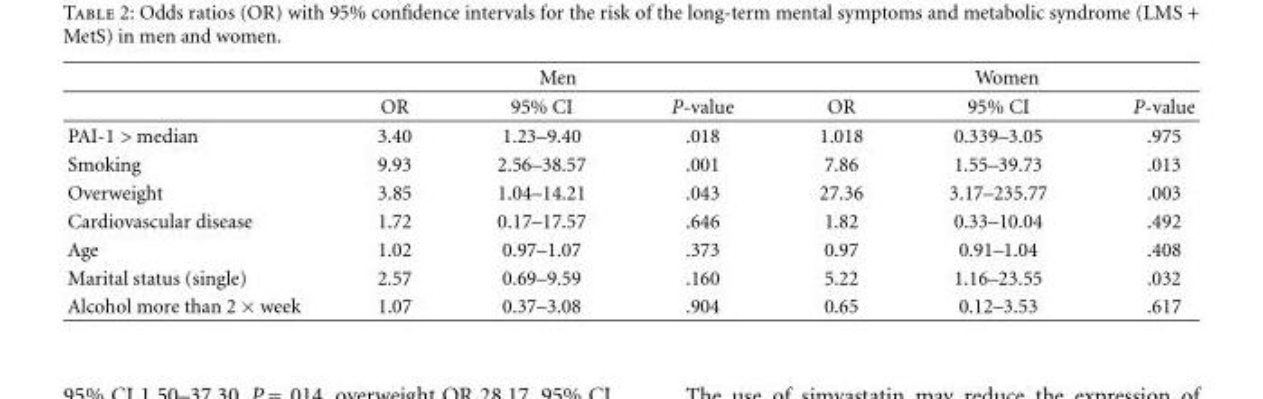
<table><thead><tr><td rowspan="2"></td><td colspan="3">Men</td><td colspan="3">Women</td></tr><tr><td>OR</td><td>95% CI</td><td>P-value</td><td>OR</td><td>95% CI</td><td>P-value</td></tr></thead><tbody><tr><td>PAI-1 &gt; median</td><td>3.40</td><td>1.23–9.40</td><td>.018</td><td>1.018</td><td>0.339–3.05</td><td>.975</td></tr><tr><td>Smoking</td><td>9.93</td><td>2.56–38.57</td><td>.001</td><td>7.86</td><td>1.55–39.73</td><td>.013</td></tr><tr><td>Overweight</td><td>3.85</td><td>1.04–14.21</td><td>.043</td><td>27.36</td><td>3.17–235.77</td><td>.003</td></tr><tr><td>Cardiovascular disease</td><td>1.72</td><td>0.17–17.57</td><td>.646</td><td>1.82</td><td>0.33–10.04</td><td>.492</td></tr><tr><td>Age</td><td>1.02</td><td>0.97–1.07</td><td>.373</td><td>0.97</td><td>0.91–1.04</td><td>.408</td></tr><tr><td>Marital status (single)</td><td>2.57</td><td>0.69–9.59</td><td>.160</td><td>5.22</td><td>1.16–23.55</td><td>.032</td></tr><tr><td>Alcohol more than 2 × week</td><td>1.07</td><td>0.37–3.08</td><td>.904</td><td>0.65</td><td>0.12–3.53</td><td>.617</td></tr></tbody></table>